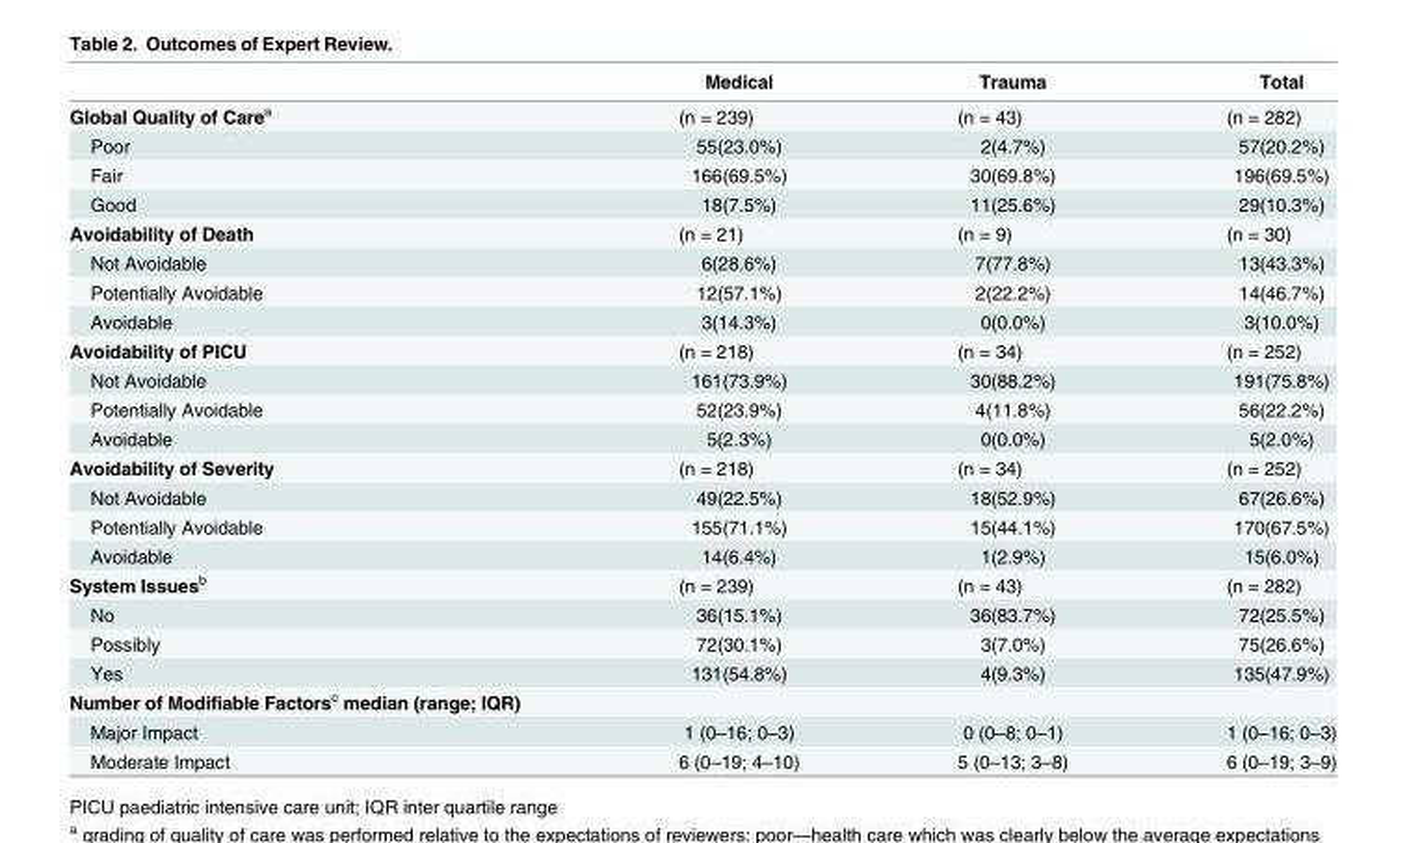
<table><thead><tr><td></td><td>Medical</td><td>Trauma</td><td>Total</td></tr></thead><tbody><tr><td>Global Quality of Care<sup>a</sup></td><td>(n = 239)</td><td>(n = 43)</td><td>(n = 282)</td></tr><tr><td>Poor</td><td>55(23.0%)</td><td>2(4.7%)</td><td>57(20.2%)</td></tr><tr><td>Fair</td><td>166(69.5%)</td><td>30(69.8%)</td><td>196(69.5%)</td></tr><tr><td>Good</td><td>18(7.5%)</td><td>11(25.6%)</td><td>29(10.3%)</td></tr><tr><td>Avoidability of Death</td><td>(n = 21)</td><td>(n = 9)</td><td>(n = 30)</td></tr><tr><td>Not Avoidable</td><td>6(28.6%)</td><td>7(77.8%)</td><td>13(43.3%)</td></tr><tr><td>Potentially Avoidable</td><td>12(57.1%)</td><td>2(22.2%)</td><td>14(46.7%)</td></tr><tr><td>Avoidable</td><td>3(14.3%)</td><td>0(0.0%)</td><td>3(10.0%)</td></tr><tr><td>Avoidability of PICU</td><td>(n = 218)</td><td>(n = 34)</td><td>(n = 252)</td></tr><tr><td>Not Avoidable</td><td>161(73.9%)</td><td>30(88.2%)</td><td>191(75.8%)</td></tr><tr><td>Potentially Avoidable</td><td>52(23.9%)</td><td>4(11.8%)</td><td>56(22.2%)</td></tr><tr><td>Avoidable</td><td>5(2.3%)</td><td>0(0.0%)</td><td>5(2.0%)</td></tr><tr><td>Avoidability of Severity</td><td>(n = 218)</td><td>(n = 34)</td><td>(n = 252)</td></tr><tr><td>Not Avoidable</td><td>49(22.5%)</td><td>18(52.9%)</td><td>67(26.6%)</td></tr><tr><td>Potentially Avoidable</td><td>155(71.1%)</td><td>15(44.1%)</td><td>170(67.5%)</td></tr><tr><td>Avoidable</td><td>14(6.4%)</td><td>1(2.9%)</td><td>15(6.0%)</td></tr><tr><td>System Issues<sup>b</sup></td><td>(n = 239)</td><td>(n = 43)</td><td>(n = 282)</td></tr><tr><td>No</td><td>36(15.1%)</td><td>36(83.7%)</td><td>72(25.5%)</td></tr><tr><td>Possibly</td><td>72(30.1%)</td><td>3(7.0%)</td><td>75(26.6%)</td></tr><tr><td>Yes</td><td>131(54.8%)</td><td>4(9.3%)</td><td>135(47.9%)</td></tr><tr><td colspan="4">Number of Modifiable Factors<sup>c</sup> median (range; IQR)</td></tr><tr><td>Major Impact</td><td>1 (0–16; 0–3)</td><td>0 (0–8; 0–1)</td><td>1 (0–16; 0–3)</td></tr><tr><td>Moderate Impact</td><td>6 (0–19; 4–10)</td><td>5 (0–13; 3–8)</td><td>6 (0–19; 3–9)</td></tr></tbody></table>